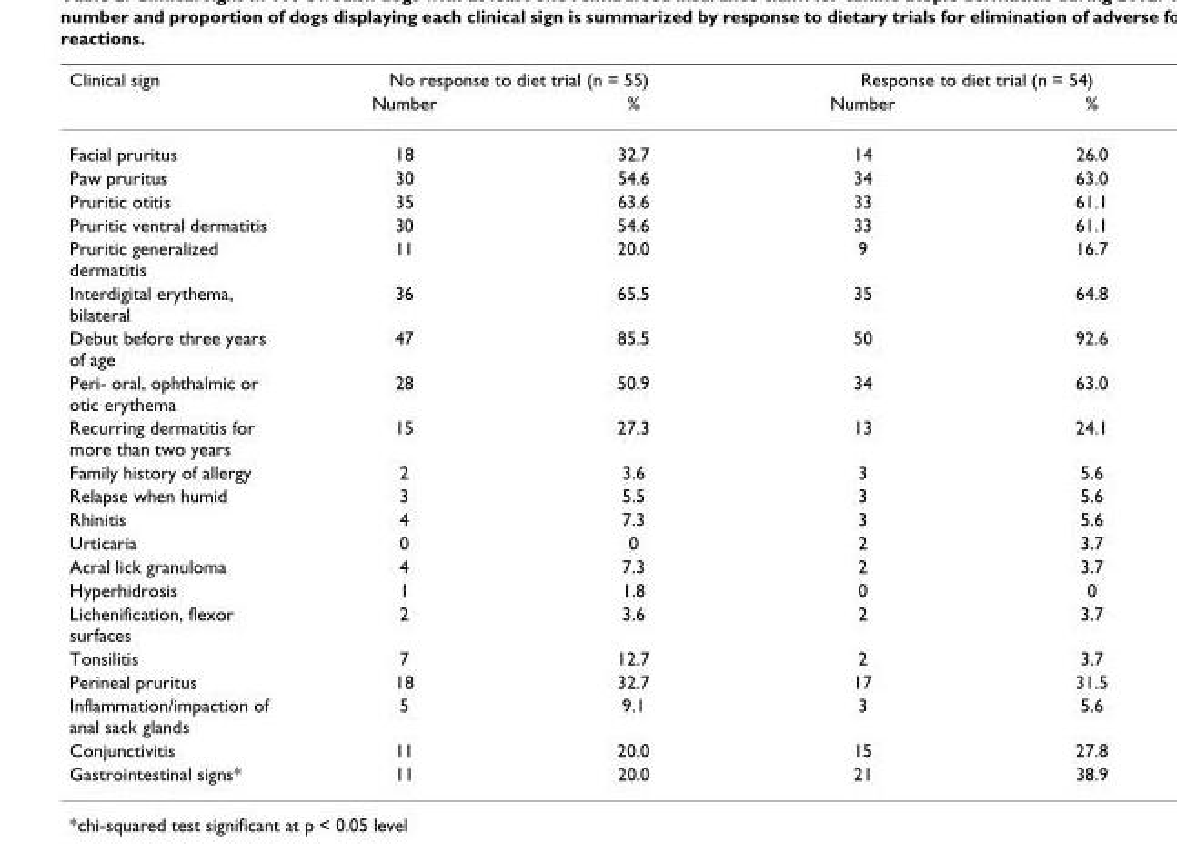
<table><thead><tr><td rowspan="2">Clinical sign</td><td colspan="2">No response to diet trial (n = 55)</td><td colspan="2">Response to diet trial (n = 54)</td></tr><tr><td>Number</td><td>%</td><td>Number</td><td>%</td></tr></thead><tbody><tr><td>Facial pruritus</td><td>18</td><td>32.7</td><td>14</td><td>26.0</td></tr><tr><td>Paw pruritus</td><td>30</td><td>54.6</td><td>34</td><td>63.0</td></tr><tr><td>Pruritic otitis</td><td>35</td><td>63.6</td><td>33</td><td>61.1</td></tr><tr><td>Pruritic ventral dermatitis</td><td>30</td><td>54.6</td><td>33</td><td>61.1</td></tr><tr><td>Pruritic generalized dermatitis</td><td>11</td><td>20.0</td><td>9</td><td>16.7</td></tr><tr><td>Interdigital erythema, bilateral</td><td>36</td><td>65.5</td><td>35</td><td>64.8</td></tr><tr><td>Debut before three years of age</td><td>47</td><td>85.5</td><td>50</td><td>92.6</td></tr><tr><td>Peri- oral, ophthalmic or otic erythema</td><td>28</td><td>50.9</td><td>34</td><td>63.0</td></tr><tr><td>Recurring dermatitis for more than two years</td><td>15</td><td>27.3</td><td>13</td><td>24.1</td></tr><tr><td>Family history of allergy</td><td>2</td><td>3.6</td><td>3</td><td>5.6</td></tr><tr><td>Relapse when humid</td><td>3</td><td>5.5</td><td>3</td><td>5.6</td></tr><tr><td>Rhinitis</td><td>4</td><td>7.3</td><td>3</td><td>5.6</td></tr><tr><td>Urticaria</td><td>0</td><td>0</td><td>2</td><td>3.7</td></tr><tr><td>Acral lick granuloma</td><td>4</td><td>7.3</td><td>2</td><td>3.7</td></tr><tr><td>Hyperhidrosis</td><td>1</td><td>1.8</td><td>0</td><td>0</td></tr><tr><td>Lichenification, flexor surfaces</td><td>2</td><td>3.6</td><td>2</td><td>3.7</td></tr><tr><td>Tonsilitis</td><td>7</td><td>12.7</td><td>2</td><td>3.7</td></tr><tr><td>Perineal pruritus</td><td>18</td><td>32.7</td><td>17</td><td>31.5</td></tr><tr><td>Inflammation/impaction of anal sack glands</td><td>5</td><td>9.1</td><td>3</td><td>5.6</td></tr><tr><td>Conjunctivitis</td><td>11</td><td>20.0</td><td>15</td><td>27.8</td></tr><tr><td>Gastrointestinal signs*</td><td>11</td><td>20.0</td><td>21</td><td>38.9</td></tr></tbody></table>